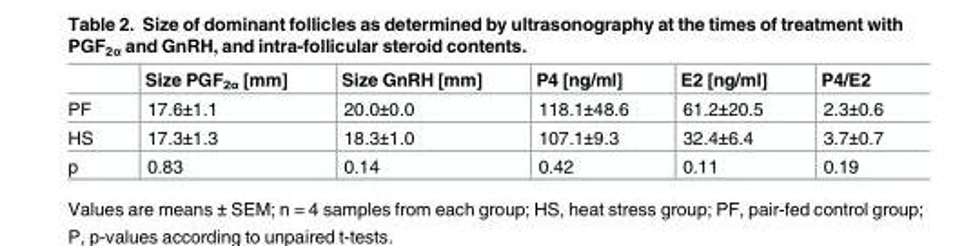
<table><thead><tr><td></td><td>Size PGF<sub>2α</sub> [mm]</td><td>Size GnRH [mm]</td><td>P4 [ng/ml]</td><td>E2 [ng/ml]</td><td>P4/E2</td></tr></thead><tbody><tr><td>PF</td><td>17.6±1.1</td><td>20.0±0.0</td><td>118.1±48.6</td><td>61.2±20.5</td><td>2.3±0.6</td></tr><tr><td>HS</td><td>17.3±1.3</td><td>18.3±1.0</td><td>107.1±9.3</td><td>32.4±6.4</td><td>3.7±0.7</td></tr><tr><td>p</td><td>0.83</td><td>0.14</td><td>0.42</td><td>0.11</td><td>0.19</td></tr></tbody></table>